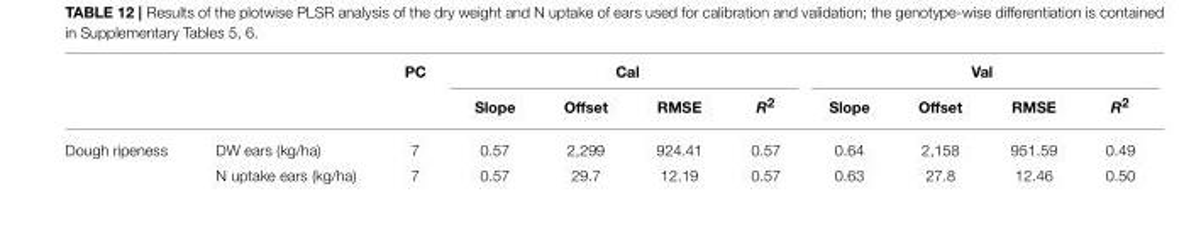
<table><thead><tr><td rowspan="2"></td><td rowspan="2"></td><td rowspan="2">PC</td><td colspan="4">Cal</td><td colspan="4">Val</td></tr><tr><td>Slope</td><td>Offset</td><td>RMSE</td><td>R<sup>2</sup></td><td>Slope</td><td>Offset</td><td>RMSE</td><td>R<sup>2</sup></td></tr></thead><tbody><tr><td rowspan="2">Dough ripeness</td><td>DW ears (kg/ha)</td><td>7</td><td>0.57</td><td>2,299</td><td>924.41</td><td>0.57</td><td>0.64</td><td>2,158</td><td>951.59</td><td>0.49</td></tr><tr><td>N uptake ears (kg/ha)</td><td>7</td><td>0.57</td><td>29.7</td><td>12.19</td><td>0.57</td><td>0.63</td><td>27.8</td><td>12.46</td><td>0.50</td></tr></tbody></table>